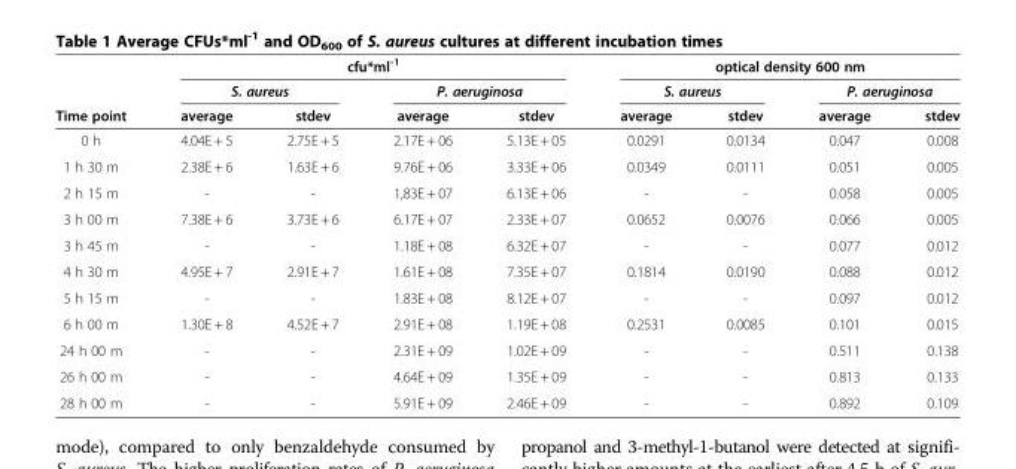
<table><thead><tr><td rowspan="3">Time point</td><td colspan="4">cfu*ml<sup>-1</sup></td><td colspan="4">optical density 600 nm</td></tr><tr><td colspan="2">S. aureus</td><td colspan="2">P. aeruginosa</td><td colspan="2">S. aureus</td><td colspan="2">P. aeruginosa</td></tr><tr><td>average</td><td>stdev</td><td>average</td><td>stdev</td><td>average</td><td>stdev</td><td>average</td><td>stdev</td></tr></thead><tbody><tr><td>0 h</td><td>4.04E + 5</td><td>2.75E + 5</td><td>2.17E + 06</td><td>5.13E + 05</td><td>0.0291</td><td>0.0134</td><td>0.047</td><td>0.008</td></tr><tr><td>1 h 30 m</td><td>2.38E + 6</td><td>1.63E + 6</td><td>9.76E + 06</td><td>3.33E + 06</td><td>0.0349</td><td>0.0111</td><td>0.051</td><td>0.005</td></tr><tr><td>2 h 15 m</td><td>-</td><td>-</td><td>1,83E + 07</td><td>6.13E + 06</td><td>-</td><td>-</td><td>0.058</td><td>0.005</td></tr><tr><td>3 h 00 m</td><td>7.38E + 6</td><td>3.73E + 6</td><td>6.17E + 07</td><td>2.33E + 07</td><td>0.0652</td><td>0.0076</td><td>0.066</td><td>0.005</td></tr><tr><td>3 h 45 m</td><td>-</td><td>-</td><td>1.18E + 08</td><td>6.32E + 07</td><td>-</td><td>-</td><td>0.077</td><td>0.012</td></tr><tr><td>4 h 30 m</td><td>4.95E + 7</td><td>2.91E + 7</td><td>1.61E + 08</td><td>7.35E + 07</td><td>0.1814</td><td>0.0190</td><td>0.088</td><td>0.012</td></tr><tr><td>5 h 15 m</td><td>-</td><td>-</td><td>1.83E + 08</td><td>8.12E + 07</td><td>-</td><td>-</td><td>0.097</td><td>0.012</td></tr><tr><td>6 h 00 m</td><td>1.30E + 8</td><td>4.52E + 7</td><td>2.91E + 08</td><td>1.19E + 08</td><td>0.2531</td><td>0.0085</td><td>0.101</td><td>0.015</td></tr><tr><td>24 h 00 m</td><td>-</td><td>-</td><td>2.31E + 09</td><td>1.02E + 09</td><td>-</td><td>-</td><td>0.511</td><td>0.138</td></tr><tr><td>26 h 00 m</td><td>-</td><td>-</td><td>4.64E + 09</td><td>1.35E + 09</td><td>-</td><td>-</td><td>0.813</td><td>0.133</td></tr><tr><td>28 h 00 m</td><td>-</td><td>-</td><td>5.91E + 09</td><td>2.46E + 09</td><td>-</td><td>-</td><td>0.892</td><td>0.109</td></tr></tbody></table>